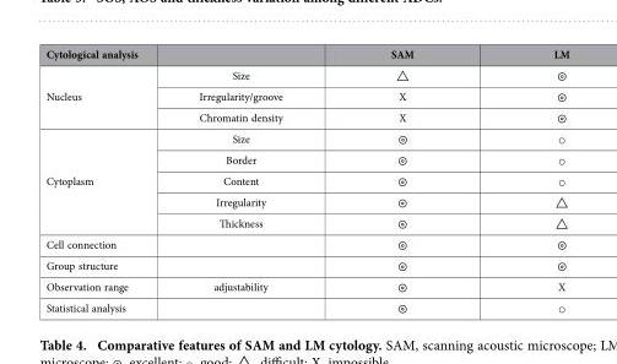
<table><thead><tr><td>Cytological analysis</td><td></td><td>SAM</td><td>LM</td></tr></thead><tbody><tr><td rowspan="3">Nucleus</td><td>Size</td><td>△</td><td>⊚</td></tr><tr><td>Irregularity/groove</td><td>X</td><td>⊚</td></tr><tr><td>Chromatin density</td><td>X</td><td>⊚</td></tr><tr><td rowspan="5">Cytoplasm</td><td>Size</td><td>⊚</td><td>○</td></tr><tr><td>Border</td><td>⊚</td><td>○</td></tr><tr><td>Content</td><td>⊚</td><td>○</td></tr><tr><td>Irregularity</td><td>⊚</td><td>△</td></tr><tr><td>Thickness</td><td>⊚</td><td>△</td></tr><tr><td>Cell connection</td><td></td><td>⊚</td><td>⊚</td></tr><tr><td>Group structure</td><td></td><td>⊚</td><td>⊚</td></tr><tr><td>Observation range</td><td>adjustability</td><td>⊚</td><td>X</td></tr><tr><td>Statistical analysis</td><td></td><td>⊚</td><td>○</td></tr></tbody></table>